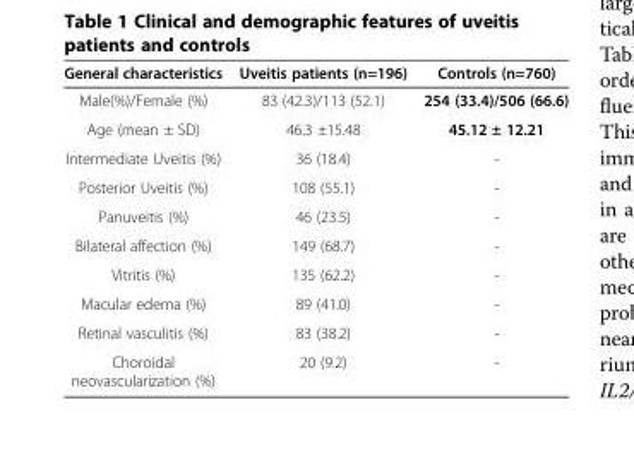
<table><thead><tr><td>General characteristics</td><td>Uveitis patients (n=196)</td><td>Controls (n=760)</td></tr></thead><tbody><tr><td>Male(%)/Female (%)</td><td>83 (42.3)/113 (52.1)</td><td>254 (33.4)/506 (66.6)</td></tr><tr><td>Age (mean ± SD)</td><td>46.3 ±15.48</td><td>45.12 ± 12.21</td></tr><tr><td>Intermediate Uveitis (%)</td><td>36 (18.4)</td><td>-</td></tr><tr><td>Posterior Uveitis (%)</td><td>108 (55.1)</td><td>-</td></tr><tr><td>Panuveitis (%)</td><td>46 (23.5)</td><td>-</td></tr><tr><td>Bilateral affection (%)</td><td>149 (68.7)</td><td>-</td></tr><tr><td>Vitritis (%)</td><td>135 (62.2)</td><td>-</td></tr><tr><td>Macular edema (%)</td><td>89 (41.0)</td><td>-</td></tr><tr><td>Retinal vasculitis (%)</td><td>83 (38.2)</td><td>-</td></tr><tr><td>Choroidal neovascularization (%)</td><td>20 (9.2)</td><td>-</td></tr></tbody></table>